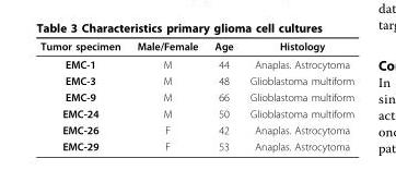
<table><thead><tr><td>Tumor specimen</td><td>Male/Female</td><td>Age</td><td>Histology</td></tr></thead><tbody><tr><td>EMC-1</td><td>M</td><td>44</td><td>Anaplas. Astrocytoma</td></tr><tr><td>EMC-3</td><td>M</td><td>48</td><td>Glioblastoma multiform</td></tr><tr><td>EMC-9</td><td>M</td><td>66</td><td>Glioblastoma multiform</td></tr><tr><td>EMC-24</td><td>M</td><td>50</td><td>Glioblastoma multiform</td></tr><tr><td>EMC-26</td><td>F</td><td>42</td><td>Anaplas. Astrocytoma</td></tr><tr><td>EMC-29</td><td>F</td><td>53</td><td>Anaplas. Astrocytoma</td></tr></tbody></table>